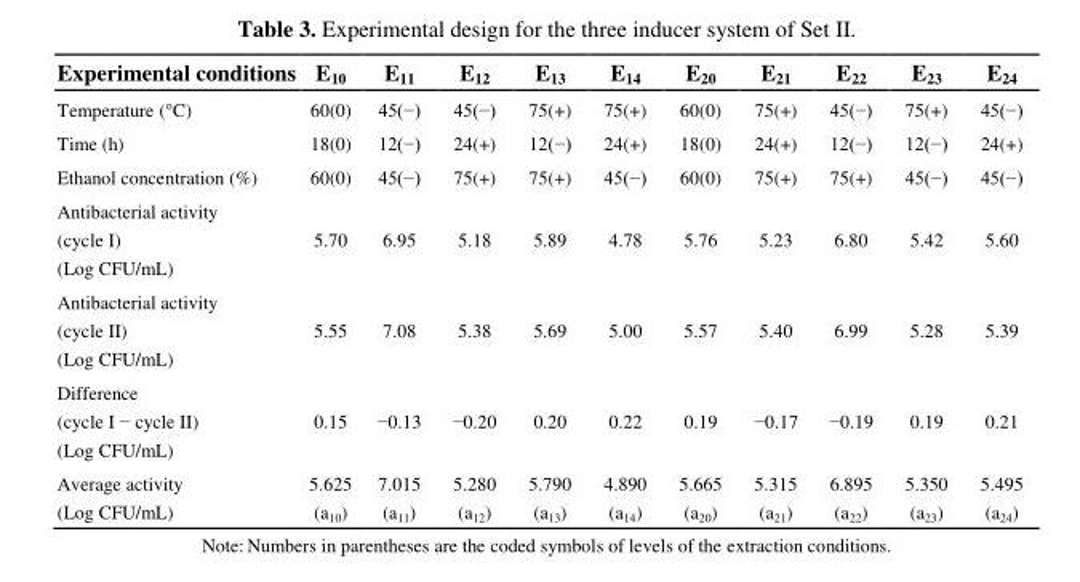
<table><thead><tr><td>Experimental conditions</td><td>E<sub>10</sub></td><td>E<sub>11</sub></td><td>E<sub>12</sub></td><td>E<sub>13</sub></td><td>E<sub>14</sub></td><td>E<sub>20</sub></td><td>E<sub>21</sub></td><td>E<sub>22</sub></td><td>E<sub>23</sub></td><td>E<sub>24</sub></td></tr></thead><tbody><tr><td>Temperature (°C)</td><td>60(0)</td><td>45(−)</td><td>45(−)</td><td>75(+)</td><td>75(+)</td><td>60(0)</td><td>75(+)</td><td>45(−)</td><td>75(+)</td><td>45(−)</td></tr><tr><td>Time (h)</td><td>18(0)</td><td>12(−)</td><td>24(+)</td><td>12(−)</td><td>24(+)</td><td>18(0)</td><td>24(+)</td><td>12(−)</td><td>12(−)</td><td>24(+)</td></tr><tr><td>Ethanol concentration (%)</td><td>60(0)</td><td>45(−)</td><td>75(+)</td><td>75(+)</td><td>45(−)</td><td>60(0)</td><td>75(+)</td><td>75(+)</td><td>45(−)</td><td>45(−)</td></tr><tr><td>Antibacterial activity (cycle I) (Log CFU/mL)</td><td>5.70</td><td>6.95</td><td>5.18</td><td>5.89</td><td>4.78</td><td>5.76</td><td>5.23</td><td>6.80</td><td>5.42</td><td>5.60</td></tr><tr><td>Antibacterial activity (cycle II) (Log CFU/mL)</td><td>5.55</td><td>7.08</td><td>5.38</td><td>5.69</td><td>5.00</td><td>5.57</td><td>5.40</td><td>6.99</td><td>5.28</td><td>5.39</td></tr><tr><td>Difference (cycle I − cycle II) (Log CFU/mL)</td><td>0.15</td><td>−0.13</td><td>−0.20</td><td>0.20</td><td>0.22</td><td>0.19</td><td>−0.17</td><td>−0.19</td><td>0.19</td><td>0.21</td></tr><tr><td>Average activity (Log CFU/mL)</td><td>5.625 (a<sub>10</sub>)</td><td>7.015 (a<sub>11</sub>)</td><td>5.280 (a<sub>12</sub>)</td><td>5.790 (a<sub>13</sub>)</td><td>4.890 (a<sub>14</sub>)</td><td>5.665 (a<sub>20</sub>)</td><td>5.315 (a<sub>21</sub>)</td><td>6.895 (a<sub>22</sub>)</td><td>5.350 (a<sub>23</sub>)</td><td>5.495 (a<sub>24</sub>)</td></tr></tbody></table>